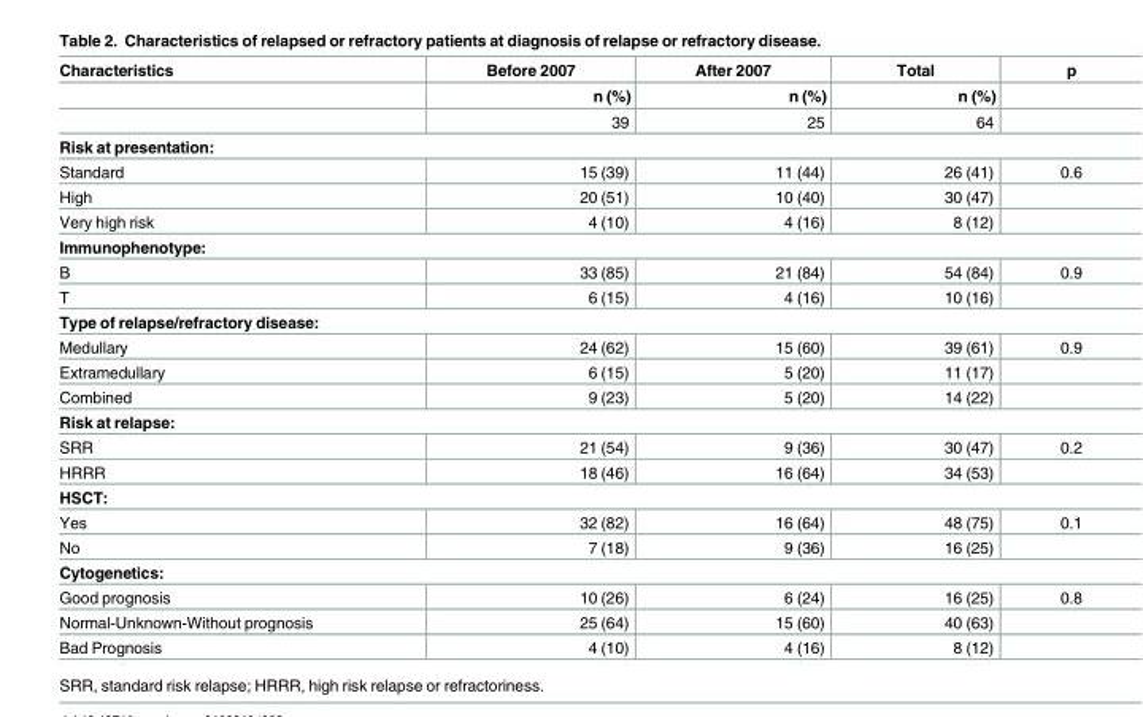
<table><thead><tr><td rowspan="2">Characteristics</td><td rowspan="2">Before 2007 n (%)</td><td rowspan="2">After 2007 n (%)</td><td rowspan="2">Total n (%)</td><td rowspan="2">p</td></tr><tr></tr></thead><tbody><tr><td></td><td>39</td><td>25</td><td>64</td><td></td></tr><tr><td colspan="5">Risk at presentation:</td></tr><tr><td>Standard</td><td>15 (39)</td><td>11 (44)</td><td>26 (41)</td><td>0.6</td></tr><tr><td>High</td><td>20 (51)</td><td>10 (40)</td><td>30 (47)</td><td></td></tr><tr><td>Very high risk</td><td>4 (10)</td><td>4 (16)</td><td>8 (12)</td><td></td></tr><tr><td colspan="5">Immunophenotype:</td></tr><tr><td>B</td><td>33 (85)</td><td>21 (84)</td><td>54 (84)</td><td>0.9</td></tr><tr><td>T</td><td>6 (15)</td><td>4 (16)</td><td>10 (16)</td><td></td></tr><tr><td colspan="5">Type of relapse/refractory disease:</td></tr><tr><td>Medullary</td><td>24 (62)</td><td>15 (60)</td><td>39 (61)</td><td>0.9</td></tr><tr><td>Extramedullary</td><td>6 (15)</td><td>5 (20)</td><td>11 (17)</td><td></td></tr><tr><td>Combined</td><td>9 (23)</td><td>5 (20)</td><td>14 (22)</td><td></td></tr><tr><td colspan="5">Risk at relapse:</td></tr><tr><td>SRR</td><td>21 (54)</td><td>9 (36)</td><td>30 (47)</td><td>0.2</td></tr><tr><td>HRRR</td><td>18 (46)</td><td>16 (64)</td><td>34 (53)</td><td></td></tr><tr><td colspan="5">HSCT:</td></tr><tr><td>Yes</td><td>32 (82)</td><td>16 (64)</td><td>48 (75)</td><td>0.1</td></tr><tr><td>No</td><td>7 (18)</td><td>9 (36)</td><td>16 (25)</td><td></td></tr><tr><td colspan="5">Cytogenetics:</td></tr><tr><td>Good prognosis</td><td>10 (26)</td><td>6 (24)</td><td>16 (25)</td><td>0.8</td></tr><tr><td>Normal-Unknown-Without prognosis</td><td>25 (64)</td><td>15 (60)</td><td>40 (63)</td><td></td></tr><tr><td>Bad Prognosis</td><td>4 (10)</td><td>4 (16)</td><td>8 (12)</td><td></td></tr></tbody></table>